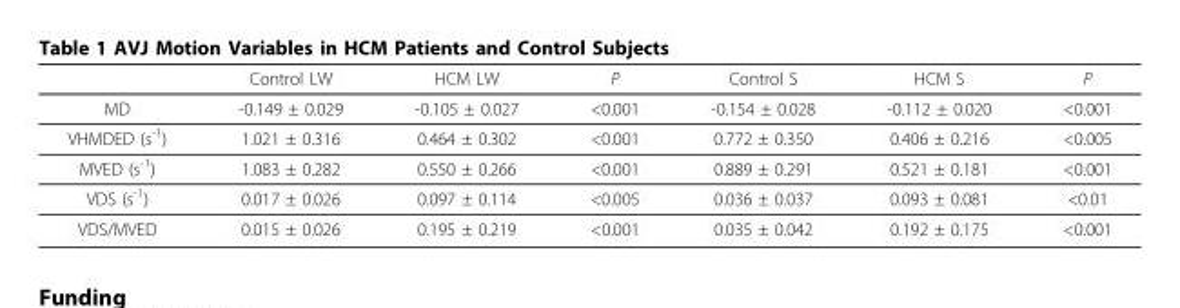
<table><thead><tr><td></td><td>Control LW</td><td>HCM LW</td><td>P</td><td>Control S</td><td>HCM S</td><td>P</td></tr></thead><tbody><tr><td>MD</td><td>-0.149 ± 0.029</td><td>-0.105 ± 0.027</td><td>&lt;0.001</td><td>-0.154 ± 0.028</td><td>-0.112 ± 0.020</td><td>&lt;0.001</td></tr><tr><td>VHMDED (s<sup>-1</sup>)</td><td>1.021 ± 0.316</td><td>0.464 ± 0.302</td><td>&lt;0.001</td><td>0.772 ± 0.350</td><td>0.406 ± 0.216</td><td>&lt;0.005</td></tr><tr><td>MVED (s<sup>-1</sup>)</td><td>1.083 ± 0.282</td><td>0.550 ± 0.266</td><td>&lt;0.001</td><td>0.889 ± 0.291</td><td>0.521 ± 0.181</td><td>&lt;0.001</td></tr><tr><td>VDS (s<sup>-1</sup>)</td><td>0.017 ± 0.026</td><td>0.097 ± 0.114</td><td>&lt;0.005</td><td>0.036 ± 0.037</td><td>0.093 ± 0.081</td><td>&lt;0.01</td></tr><tr><td>VDS/MVED</td><td>0.015 ± 0.026</td><td>0.195 ± 0.219</td><td>&lt;0.001</td><td>0.035 ± 0.042</td><td>0.192 ± 0.175</td><td>&lt;0.001</td></tr></tbody></table>